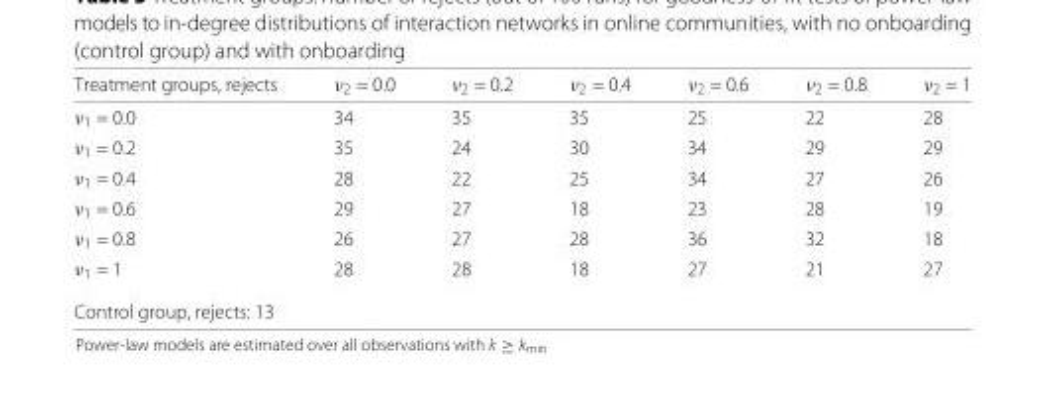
<table><thead><tr><td>Treatment groups, rejects</td><td>ν<sub>2</sub> = 0.0</td><td>ν<sub>2</sub> = 0.2</td><td>ν<sub>2</sub> = 0.4</td><td>ν<sub>2</sub> = 0.6</td><td>ν<sub>2</sub> = 0.8</td><td>ν<sub>2</sub> = 1</td></tr></thead><tbody><tr><td>ν<sub>1</sub> = 0.0</td><td>34</td><td>35</td><td>35</td><td>25</td><td>22</td><td>28</td></tr><tr><td>ν<sub>1</sub> = 0.2</td><td>35</td><td>24</td><td>30</td><td>34</td><td>29</td><td>29</td></tr><tr><td>ν<sub>1</sub> = 0.4</td><td>28</td><td>22</td><td>25</td><td>34</td><td>27</td><td>26</td></tr><tr><td>ν<sub>1</sub> = 0.6</td><td>29</td><td>27</td><td>18</td><td>23</td><td>28</td><td>19</td></tr><tr><td>ν<sub>1</sub> = 0.8</td><td>26</td><td>27</td><td>28</td><td>36</td><td>32</td><td>18</td></tr><tr><td>ν<sub>1</sub> = 1</td><td>28</td><td>28</td><td>18</td><td>27</td><td>21</td><td>27</td></tr><tr><td colspan="7">Control group, rejects: 13</td></tr></tbody></table>